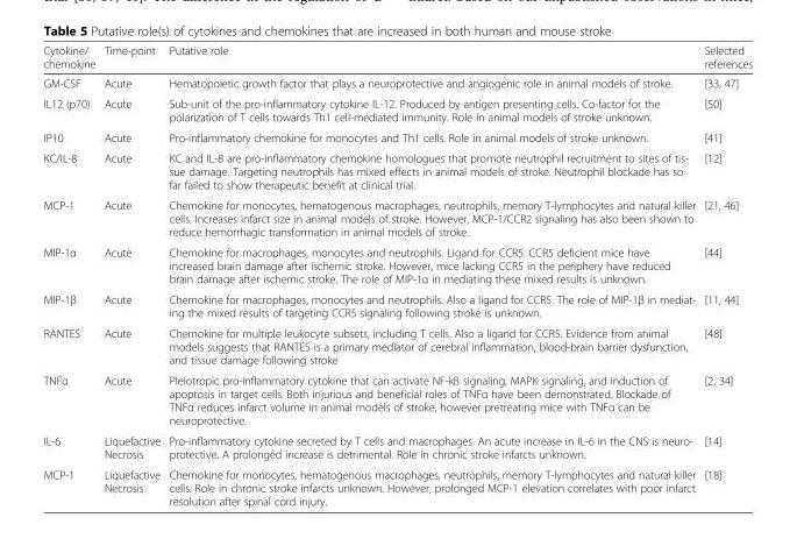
<table><thead><tr><td>Cytokine/ chemokine</td><td>Time-point</td><td>Putative role</td><td>Selected references</td></tr></thead><tbody><tr><td>GM-CSF</td><td>Acute</td><td>Hematopoietic growth factor that plays a neuroprotective and angiogenic role in animal models of stroke.</td><td>[33, 47]</td></tr><tr><td>IL12 (p70)</td><td>Acute</td><td>Sub-unit of the pro-inflammatory cytokine IL-12. Produced by antigen presenting cells. Co-factor for the polarization of T cells towards Th1 cell-mediated immunity. Role in animal models of stroke unknown.</td><td>[50]</td></tr><tr><td>IP10</td><td>Acute</td><td>Pro-inflammatory chemokine for monocytes and Th1 cells. Role in animal models of stroke unknown.</td><td>[41]</td></tr><tr><td>KC/IL-8</td><td>Acute</td><td>KC and IL-8 are pro-inflammatory chemokine homologues that promote neutrophil recruitment to sites of tis- sue damage. Targeting neutrophils has mixed effects in animal models of stroke. Neutrophil blockade has so far failed to show therapeutic benefit at clinical trial.</td><td>[12]</td></tr><tr><td>MCP-1</td><td>Acute</td><td>Chemokine for monocytes, hematogenous macrophages, neutrophils, memory T-lymphocytes and natural killer cells. Increases infarct size in animal models of stroke. However, MCP-1/CCR2 signaling has also been shown to reduce hemorrhagic transformation in animal models of stroke.</td><td>[21, 46]</td></tr><tr><td>MIP-1α</td><td>Acute</td><td>Chemokine for macrophages, monocytes and neutrophils. Ligand for CCR5. CCR5 deficient mice have increased brain damage after ischemic stroke. However, mice lacking CCR5 in the periphery have reduced brain damage after ischemic stroke. The role of MIP-1α in mediating these mixed results is unknown.</td><td>[44]</td></tr><tr><td>MIP-1β</td><td>Acute</td><td>Chemokine for macrophages, monocytes and neutrophils. Also a ligand for CCR5. The role of MIP-1β in mediat- ing the mixed results of targeting CCR5 signaling following stroke is unknown.</td><td>[11, 44]</td></tr><tr><td>RANTES</td><td>Acute</td><td>Chemokine for multiple leukocyte subsets, including T cells. Also a ligand for CCR5. Evidence from animal models suggests that RANTES is a primary mediator of cerebral inflammation, blood-brain barrier dysfunction, and tissue damage following stroke</td><td>[48]</td></tr><tr><td>TNFα</td><td>Acute</td><td>Pleiotropic pro-inflammatory cytokine that can activate NF-kB signaling, MAPK signaling, and induction of apoptosis in target cells. Both injurious and beneficial roles of TNFα have been demonstrated. Blockade of TNFα reduces infarct volume in animal models of stroke, however pretreating mice with TNFα can be neuroprotective.</td><td>[2, 34]</td></tr><tr><td>IL-6</td><td>Liquefactive Necrosis</td><td>Pro-inflammatory cytokine secreted by T cells and macrophages. An acute increase in IL-6 in the CNS is neuro- protective. A prolonged increase is detrimental. Role in chronic stroke infarcts unknown.</td><td>[14]</td></tr><tr><td>MCP-1</td><td>Liquefactive Necrosis</td><td>Chemokine for monocytes, hematogenous macrophages, neutrophils, memory T-lymphocytes and natural killer cells. Role in chronic stroke infarcts unknown. However, prolonged MCP-1 elevation correlates with poor infarct resolution after spinal cord injury.</td><td>[18]</td></tr></tbody></table>